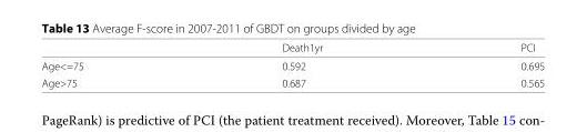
<table><thead><tr><td></td><td>Death1yr</td><td>PCI</td></tr></thead><tbody><tr><td>Age&lt;=75</td><td>0.592</td><td>0.695</td></tr><tr><td>Age&gt;75</td><td>0.687</td><td>0.565</td></tr></tbody></table>